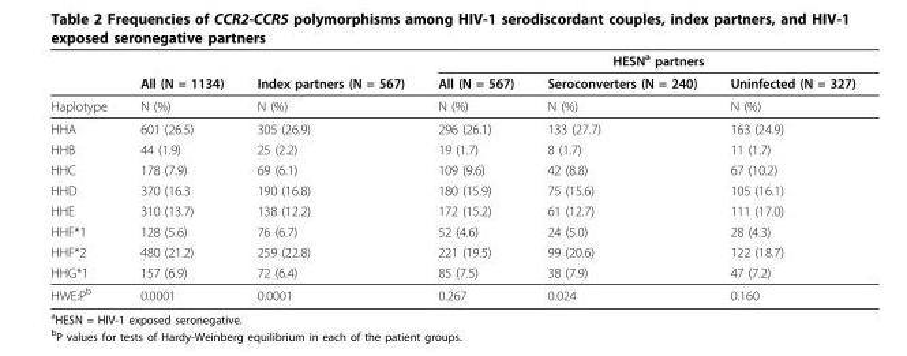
<table><thead><tr><td rowspan="2"></td><td rowspan="2">All (N = 1134)</td><td rowspan="2">Index partners (N = 567)</td><td colspan="3">HESN<sup>a</sup> partners</td></tr><tr><td>All (N = 567)</td><td>Seroconverters (N = 240)</td><td>Uninfected (N = 327)</td></tr></thead><tbody><tr><td>Haplotype</td><td>N (%)</td><td>N (%)</td><td>N (%)</td><td>N (%)</td><td>N (%)</td></tr><tr><td>HHA</td><td>601 (26.5)</td><td>305 (26.9)</td><td>296 (26.1)</td><td>133 (27.7)</td><td>163 (24.9)</td></tr><tr><td>HHB</td><td>44 (1.9)</td><td>25 (2.2)</td><td>19 (1.7)</td><td>8 (1.7)</td><td>11 (1.7)</td></tr><tr><td>HHC</td><td>178 (7.9)</td><td>69 (6.1)</td><td>109 (9.6)</td><td>42 (8.8)</td><td>67 (10.2)</td></tr><tr><td>HHD</td><td>370 (16.3</td><td>190 (16.8)</td><td>180 (15.9)</td><td>75 (15.6)</td><td>105 (16.1)</td></tr><tr><td>HHE</td><td>310 (13.7)</td><td>138 (12.2)</td><td>172 (15.2)</td><td>61 (12.7)</td><td>111 (17.0)</td></tr><tr><td>HHF*1</td><td>128 (5.6)</td><td>76 (6.7)</td><td>52 (4.6)</td><td>24 (5.0)</td><td>28 (4.3)</td></tr><tr><td>HHF*2</td><td>480 (21.2)</td><td>259 (22.8)</td><td>221 (19.5)</td><td>99 (20.6)</td><td>122 (18.7)</td></tr><tr><td>HHG*1</td><td>157 (6.9)</td><td>72 (6.4)</td><td>85 (7.5)</td><td>38 (7.9)</td><td>47 (7.2)</td></tr><tr><td>HWE:P<sup>b</sup></td><td>0.0001</td><td>0.0001</td><td>0.267</td><td>0.024</td><td>0.160</td></tr></tbody></table>